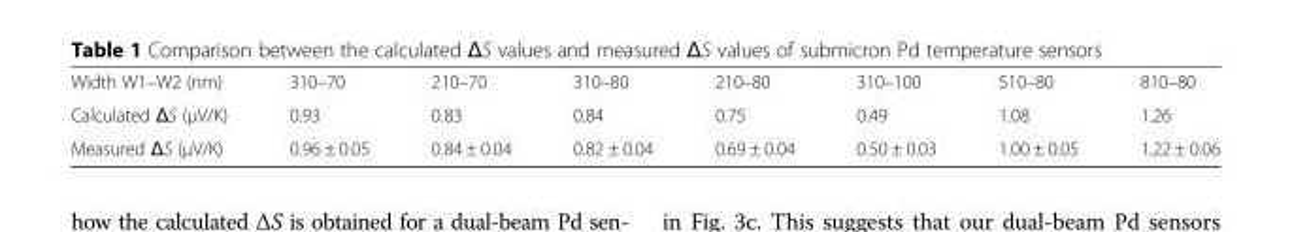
<table><tbody><tr><td>Width W1–W2 (nm)</td><td>310–70</td><td>210–70</td><td>310–80</td><td>210–80</td><td>310–100</td><td>510–80</td><td>810–80</td></tr><tr><td>Calculated ΔS (μV/K)</td><td>0.93</td><td>0.83</td><td>0.84</td><td>0.75</td><td>0.49</td><td>1.08</td><td>1.26</td></tr><tr><td>Measured ΔS (μV/K)</td><td>0.96 ± 0.05</td><td>0.84 ± 0.04</td><td>0.82 ± 0.04</td><td>0.69 ± 0.04</td><td>0.50 ± 0.03</td><td>1.00 ± 0.05</td><td>1.22 ± 0.06</td></tr></tbody></table>